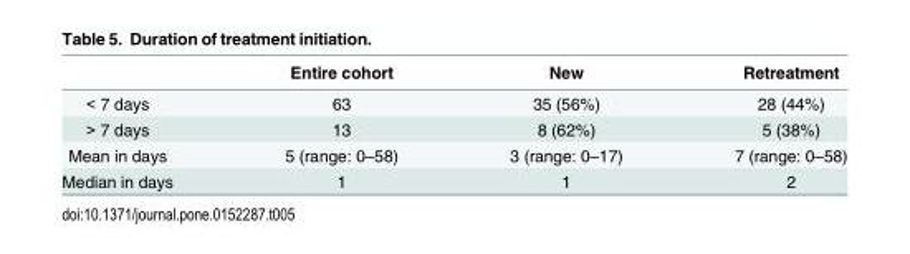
<table><thead><tr><td></td><td>Entire cohort</td><td>New</td><td>Retreatment</td></tr></thead><tbody><tr><td>&lt; 7 days</td><td>63</td><td>35 (56%)</td><td>28 (44%)</td></tr><tr><td>&gt; 7 days</td><td>13</td><td>8 (62%)</td><td>5 (38%)</td></tr><tr><td>Mean in days</td><td>5 (range: 0–58)</td><td>3 (range: 0–17)</td><td>7 (range: 0–58)</td></tr><tr><td>Median in days</td><td>1</td><td>1</td><td>2</td></tr></tbody></table>